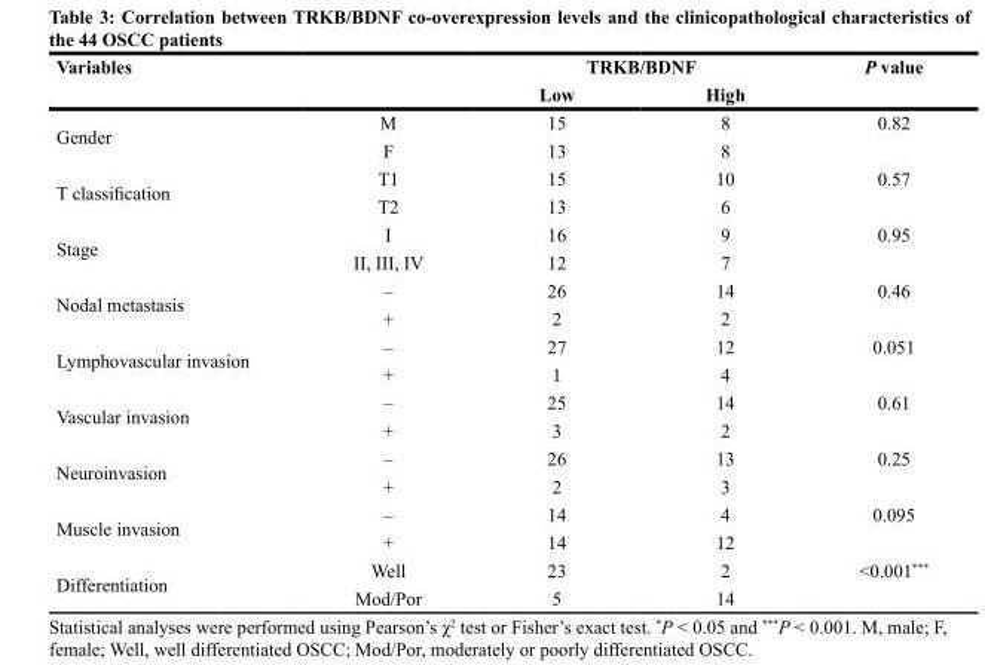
<table><thead><tr><td rowspan="2">Variables</td><td rowspan="2"></td><td colspan="2">TRKB/BDNF</td><td rowspan="2">P value</td></tr><tr><td>Low</td><td>High</td></tr></thead><tbody><tr><td rowspan="2">Gender</td><td>M</td><td>15</td><td>8</td><td>0.82</td></tr><tr><td>F</td><td>13</td><td>8</td><td></td></tr><tr><td rowspan="2">T classification</td><td>T1</td><td>15</td><td>10</td><td>0.57</td></tr><tr><td>T2</td><td>13</td><td>6</td><td></td></tr><tr><td rowspan="2">Stage</td><td>I</td><td>16</td><td>9</td><td>0.95</td></tr><tr><td>II, III, IV</td><td>12</td><td>7</td><td></td></tr><tr><td rowspan="2">Nodal metastasis</td><td>–</td><td>26</td><td>14</td><td>0.46</td></tr><tr><td>+</td><td>2</td><td>2</td><td></td></tr><tr><td rowspan="2">Lymphovascular invasion</td><td>–</td><td>27</td><td>12</td><td>0.051</td></tr><tr><td>+</td><td>1</td><td>4</td><td></td></tr><tr><td rowspan="2">Vascular invasion</td><td>–</td><td>25</td><td>14</td><td>0.61</td></tr><tr><td>+</td><td>3</td><td>2</td><td></td></tr><tr><td rowspan="2">Neuroinvasion</td><td>–</td><td>26</td><td>13</td><td>0.25</td></tr><tr><td>+</td><td>2</td><td>3</td><td></td></tr><tr><td rowspan="2">Muscle invasion</td><td>–</td><td>14</td><td>4</td><td>0.095</td></tr><tr><td>+</td><td>14</td><td>12</td><td></td></tr><tr><td rowspan="2">Differentiation</td><td>Well</td><td>23</td><td>2</td><td>&lt;0.001***</td></tr><tr><td>Mod/Por</td><td>5</td><td>14</td><td></td></tr></tbody></table>